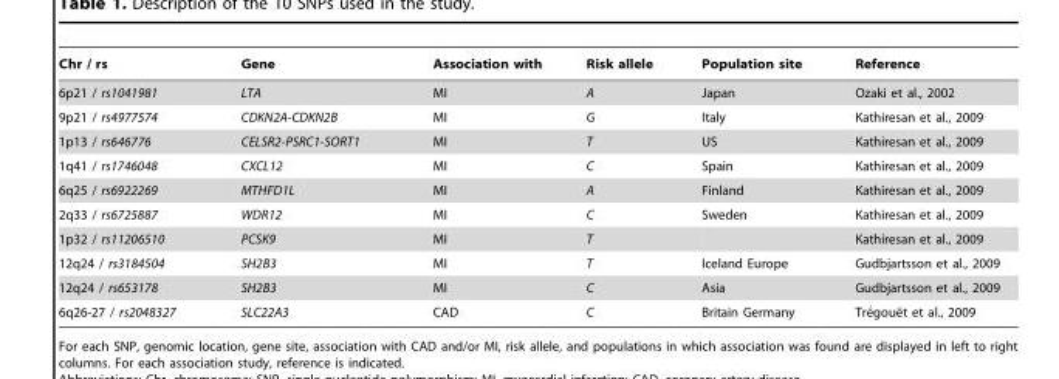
<table><thead><tr><td>Chr / rs</td><td>Gene</td><td>Association with</td><td>Risk allele</td><td>Population site</td><td>Reference</td></tr></thead><tbody><tr><td>6p21 / rs1041981</td><td>LTA</td><td>MI</td><td>A</td><td>Japan</td><td>Ozaki et al., 2002</td></tr><tr><td>9p21 / rs4977574</td><td>CDKN2A-CDKN2B</td><td>MI</td><td>G</td><td>Italy</td><td>Kathiresan et al., 2009</td></tr><tr><td>1p13 / rs646776</td><td>CELSR2-PSRC1-SORT1</td><td>MI</td><td>T</td><td>US</td><td>Kathiresan et al., 2009</td></tr><tr><td>1q41 / rs1746048</td><td>CXCL12</td><td>MI</td><td>C</td><td>Spain</td><td>Kathiresan et al., 2009</td></tr><tr><td>6q25 / rs6922269</td><td>MTHFD1L</td><td>MI</td><td>A</td><td>Finland</td><td>Kathiresan et al., 2009</td></tr><tr><td>2q33 / rs6725887</td><td>WDR12</td><td>MI</td><td>C</td><td>Sweden</td><td>Kathiresan et al., 2009</td></tr><tr><td>1p32 / rs11206510</td><td>PCSK9</td><td>MI</td><td>T</td><td></td><td>Kathiresan et al., 2009</td></tr><tr><td>12q24 / rs3184504</td><td>SH2B3</td><td>MI</td><td>T</td><td>Iceland Europe</td><td>Gudbjartsson et al., 2009</td></tr><tr><td>12q24 / rs653178</td><td>SH2B3</td><td>MI</td><td>C</td><td>Asia</td><td>Gudbjartsson et al., 2009</td></tr><tr><td>6q26-27 / rs2048327</td><td>SLC22A3</td><td>CAD</td><td>C</td><td>Britain Germany</td><td>Tre´goue¨t et al., 2009</td></tr></tbody></table>